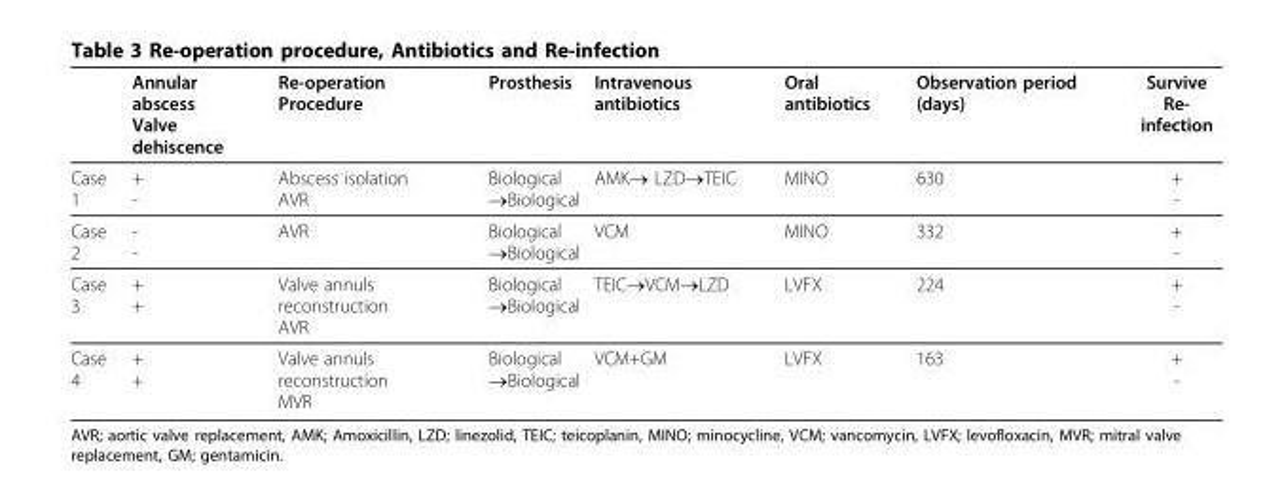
<table><thead><tr><td></td><td>Annular abscess Valve dehiscence</td><td>Re-operation Procedure</td><td>Prosthesis</td><td>Intravenous antibiotics</td><td>Oral antibiotics</td><td>Observation period (days)</td><td>Survive Re- infection</td></tr></thead><tbody><tr><td>Case 1</td><td>+ -</td><td>Abscess isolation AVR</td><td>Biological →Biological</td><td>AMK→ LZD→TEIC</td><td>MINO</td><td>630</td><td>+ -</td></tr><tr><td>Case 2</td><td>- -</td><td>AVR</td><td>Biological →Biological</td><td>VCM</td><td>MINO</td><td>332</td><td>+ -</td></tr><tr><td>Case 3</td><td>+ +</td><td>Valve annuls reconstruction AVR</td><td>Biological →Biological</td><td>TEIC→VCM→LZD</td><td>LVFX</td><td>224</td><td>+ -</td></tr><tr><td>Case 4</td><td>+ +</td><td>Valve annuls reconstruction MVR</td><td>Biological →Biological</td><td>VCM+GM</td><td>LVFX</td><td>163</td><td>+ -</td></tr></tbody></table>